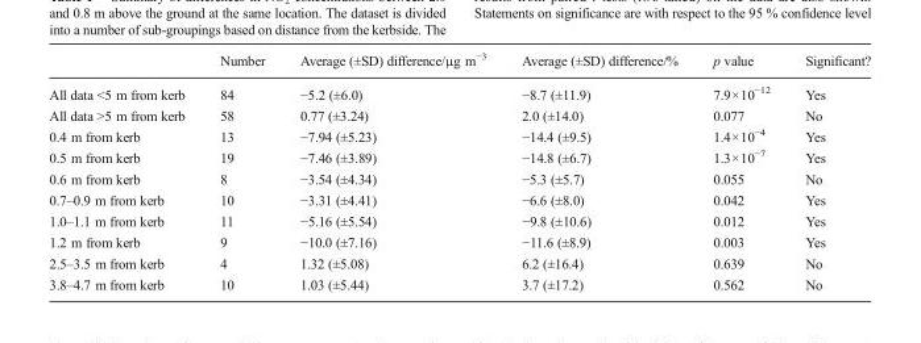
<table><thead><tr><td></td><td>Number</td><td>Average (±SD) difference/μg m<sup>−3</sup></td><td>Average (±SD) difference/%</td><td>p value</td><td>Significant?</td></tr></thead><tbody><tr><td>All data &lt;5 m from kerb</td><td>84</td><td>−5.2 (±6.0)</td><td>−8.7 (±11.9)</td><td>7.9×10<sup>−12</sup></td><td>Yes</td></tr><tr><td>All data &gt;5 m from kerb</td><td>58</td><td>0.77 (±3.24)</td><td>2.0 (±14.0)</td><td>0.077</td><td>No</td></tr><tr><td>0.4 m from kerb</td><td>13</td><td>−7.94 (±5.23)</td><td>−14.4 (±9.5)</td><td>1.4×10<sup>−4</sup></td><td>Yes</td></tr><tr><td>0.5 m from kerb</td><td>19</td><td>−7.46 (±3.89)</td><td>−14.8 (±6.7)</td><td>1.3×10<sup>−7</sup></td><td>Yes</td></tr><tr><td>0.6 m from kerb</td><td>8</td><td>−3.54 (±4.34)</td><td>−5.3 (±5.7)</td><td>0.055</td><td>No</td></tr><tr><td>0.7–0.9 m from kerb</td><td>10</td><td>−3.31 (±4.41)</td><td>−6.6 (±8.0)</td><td>0.042</td><td>Yes</td></tr><tr><td>1.0–1.1 m from kerb</td><td>11</td><td>−5.16 (±5.54)</td><td>−9.8 (±10.6)</td><td>0.012</td><td>Yes</td></tr><tr><td>1.2 m from kerb</td><td>9</td><td>−10.0 (±7.16)</td><td>−11.6 (±8.9)</td><td>0.003</td><td>Yes</td></tr><tr><td>2.5–3.5 m from kerb</td><td>4</td><td>1.32 (±5.08)</td><td>6.2 (±16.4)</td><td>0.639</td><td>No</td></tr><tr><td>3.8–4.7 m from kerb</td><td>10</td><td>1.03 (±5.44)</td><td>3.7 (±17.2)</td><td>0.562</td><td>No</td></tr></tbody></table>